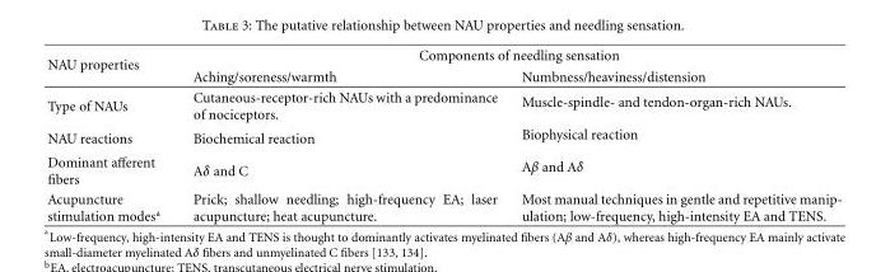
<table><thead><tr><td rowspan="2">NAU properties</td><td colspan="2">Components of needling sensation</td></tr><tr><td>Aching/soreness/warmth</td><td>Numbness/heaviness/distension</td></tr></thead><tbody><tr><td>Type of NAUs</td><td>Cutaneous-receptor-rich NAUs with a predominance of nociceptors.</td><td>Muscle-spindle- and tendon-organ-rich NAUs.</td></tr><tr><td>NAU reactions</td><td>Biochemical reaction</td><td>Biophysical reaction</td></tr><tr><td>Dominant afferent fibers</td><td>Aδ and C</td><td>Aβ and Aδ</td></tr><tr><td>Acupuncture stimulation modes<sup>a</sup></td><td>Prick; shallow needling; high-frequency EA; laser acupuncture; heat acupuncture.</td><td>Most manual techniques in gentle and repetitive manip- ulation; low-frequency, high-intensity EA and TENS.</td></tr></tbody></table>